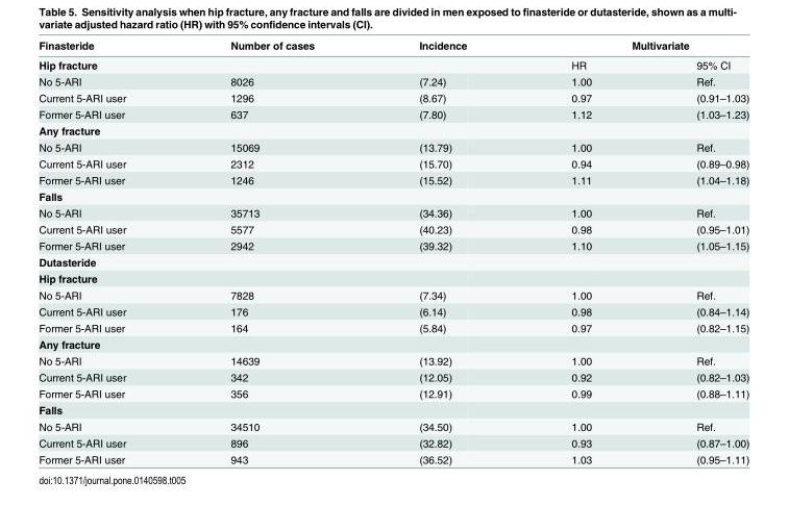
<table><thead><tr><td rowspan="2">Finasteride Hip fracture</td><td rowspan="2">Number of cases</td><td rowspan="2">Incidence</td><td colspan="2">Multivariate</td></tr><tr><td>HR</td><td>95% CI</td></tr></thead><tbody><tr><td>No 5-ARI</td><td>8026</td><td>(7.24)</td><td>1.00</td><td>Ref.</td></tr><tr><td>Current 5-ARI user</td><td>1296</td><td>(8.67)</td><td>0.97</td><td>(0.91–1.03)</td></tr><tr><td>Former 5-ARI user</td><td>637</td><td>(7.80)</td><td>1.12</td><td>(1.03–1.23)</td></tr><tr><td colspan="5">Any fracture</td></tr><tr><td>No 5-ARI</td><td>15069</td><td>(13.79)</td><td>1.00</td><td>Ref.</td></tr><tr><td>Current 5-ARI user</td><td>2312</td><td>(15.70)</td><td>0.94</td><td>(0.89–0.98)</td></tr><tr><td>Former 5-ARI user</td><td>1246</td><td>(15.52)</td><td>1.11</td><td>(1.04–1.18)</td></tr><tr><td colspan="5">Falls</td></tr><tr><td>No 5-ARI</td><td>35713</td><td>(34.36)</td><td>1.00</td><td>Ref.</td></tr><tr><td>Current 5-ARI user</td><td>5577</td><td>(40.23)</td><td>0.98</td><td>(0.95–1.01)</td></tr><tr><td>Former 5-ARI user</td><td>2942</td><td>(39.32)</td><td>1.10</td><td>(1.05–1.15)</td></tr><tr><td colspan="5">Dutasteride</td></tr><tr><td colspan="5">Hip fracture</td></tr><tr><td>No 5-ARI</td><td>7828</td><td>(7.34)</td><td>1.00</td><td>Ref.</td></tr><tr><td>Current 5-ARI user</td><td>176</td><td>(6.14)</td><td>0.98</td><td>(0.84–1.14)</td></tr><tr><td>Former 5-ARI user</td><td>164</td><td>(5.84)</td><td>0.97</td><td>(0.82–1.15)</td></tr><tr><td colspan="5">Any fracture</td></tr><tr><td>No 5-ARI</td><td>14639</td><td>(13.92)</td><td>1.00</td><td>Ref.</td></tr><tr><td>Current 5-ARI user</td><td>342</td><td>(12.05)</td><td>0.92</td><td>(0.82–1.03)</td></tr><tr><td>Former 5-ARI user</td><td>356</td><td>(12.91)</td><td>0.99</td><td>(0.88–1.11)</td></tr><tr><td colspan="5">Falls</td></tr><tr><td>No 5-ARI</td><td>34510</td><td>(34.50)</td><td>1.00</td><td>Ref.</td></tr><tr><td>Current 5-ARI user</td><td>896</td><td>(32.82)</td><td>0.93</td><td>(0.87–1.00)</td></tr><tr><td>Former 5-ARI user</td><td>943</td><td>(36.52)</td><td>1.03</td><td>(0.95–1.11)</td></tr></tbody></table>